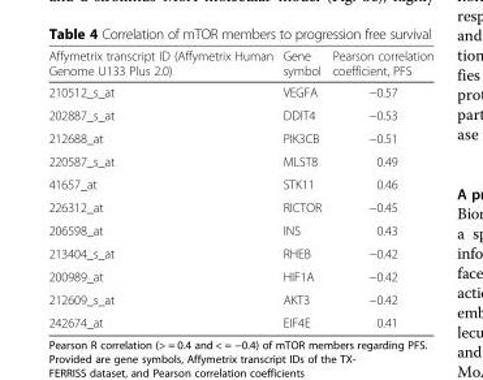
<table><thead><tr><td>Affymetrix transcript ID (Affymetrix Human Genome U133 Plus 2.0)</td><td>Gene symbol</td><td>Pearson correlation coefficient, PFS</td></tr></thead><tbody><tr><td>210512_s_at</td><td>VEGFA</td><td>−0.57</td></tr><tr><td>202887_s_at</td><td>DDIT4</td><td>−0.53</td></tr><tr><td>212688_at</td><td>PIK3CB</td><td>−0.51</td></tr><tr><td>220587_s_at</td><td>MLST8</td><td>0.49</td></tr><tr><td>41657_at</td><td>STK11</td><td>0.46</td></tr><tr><td>226312_at</td><td>RICTOR</td><td>−0.45</td></tr><tr><td>206598_at</td><td>INS</td><td>0.43</td></tr><tr><td>213404_s_at</td><td>RHEB</td><td>−0.42</td></tr><tr><td>200989_at</td><td>HIF1A</td><td>−0.42</td></tr><tr><td>212609_s_at</td><td>AKT3</td><td>−0.42</td></tr><tr><td>242674_at</td><td>EIF4E</td><td>0.41</td></tr></tbody></table>